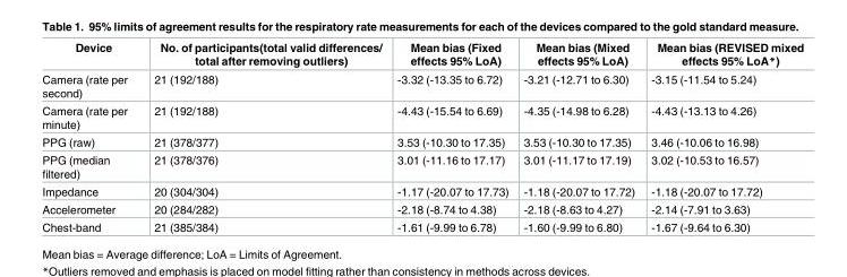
<table><thead><tr><td>Device</td><td>No. of participants(total valid differences/ total after removing outliers)</td><td>Mean bias (Fixed effects 95% LoA)</td><td>Mean bias (Mixed effects 95% LoA)</td><td>Mean bias (REVISED mixed effects 95% LoA*)</td></tr></thead><tbody><tr><td>Camera (rate per second)</td><td>21 (192/188)</td><td>-3.32 (-13.35 to 6.72)</td><td>-3.21 (-12.71 to 6.30)</td><td>-3.15 (-11.54 to 5.24)</td></tr><tr><td>Camera (rate per minute)</td><td>21 (192/188)</td><td>-4.43 (-15.54 to 6.69)</td><td>-4.35 (-14.98 to 6.28)</td><td>-4.43 (-13.13 to 4.26)</td></tr><tr><td>PPG (raw)</td><td>21 (378/377)</td><td>3.53 (-10.30 to 17.35)</td><td>3.53 (-10.30 to 17.35)</td><td>3.46 (-10.06 to 16.98)</td></tr><tr><td>PPG (median filtered)</td><td>21 (378/376)</td><td>3.01 (-11.16 to 17.17)</td><td>3.01 (-11.17 to 17.19)</td><td>3.02 (-10.53 to 16.57)</td></tr><tr><td>Impedance</td><td>20 (304/304)</td><td>-1.17 (-20.07 to 17.73)</td><td>-1.18 (-20.07 to 17.72)</td><td>-1.18 (-20.07 to 17.72)</td></tr><tr><td>Accelerometer</td><td>20 (284/282)</td><td>-2.18 (-8.74 to 4.38)</td><td>-2.18 (-8.63 to 4.27)</td><td>-2.14 (-7.91 to 3.63)</td></tr><tr><td>Chest-band</td><td>21 (385/384)</td><td>-1.61 (-9.99 to 6.78)</td><td>-1.60 (-9.99 to 6.80)</td><td>-1.67 (-9.64 to 6.30)</td></tr></tbody></table>